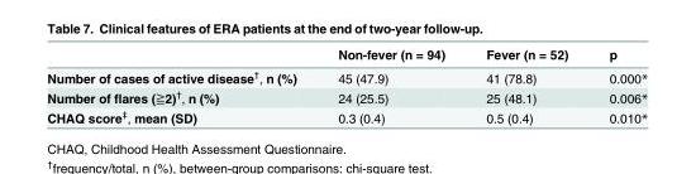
<table><thead><tr><td></td><td>Non-fever (n = 94)</td><td>Fever (n = 52)</td><td>p</td></tr></thead><tbody><tr><td>Number of cases of active disease<sup>†</sup>, n (%)</td><td>45 (47.9)</td><td>41 (78.8)</td><td>0.000*</td></tr><tr><td>Number of flares (≧2)<sup>†</sup>, n (%)</td><td>24 (25.5)</td><td>25 (48.1)</td><td>0.006*</td></tr><tr><td>CHAQ score<sup>‡</sup>, mean (SD)</td><td>0.3 (0.4)</td><td>0.5 (0.4)</td><td>0.010*</td></tr></tbody></table>